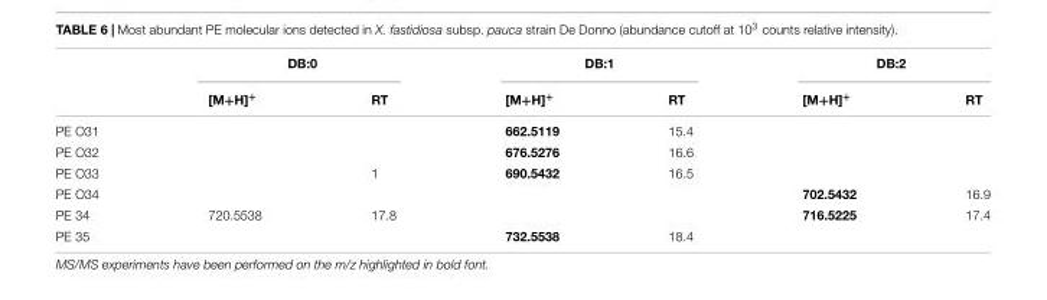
<table><thead><tr><td rowspan="2"></td><td colspan="2">DB:0</td><td colspan="2">DB:1</td><td colspan="2">DB:2</td></tr><tr><td>[M+H]<sup>+</sup></td><td>RT</td><td>[M+H]<sup>+</sup></td><td>RT</td><td>[M+H]<sup>+</sup></td><td>RT</td></tr></thead><tbody><tr><td>PE O31</td><td></td><td></td><td>662.5119</td><td>15.4</td><td></td><td></td></tr><tr><td>PE O32</td><td></td><td></td><td>676.5276</td><td>16.6</td><td></td><td></td></tr><tr><td>PE O33</td><td></td><td>1</td><td>690.5432</td><td>16.5</td><td></td><td></td></tr><tr><td>PE O34</td><td></td><td></td><td></td><td></td><td>702.5432</td><td>16.9</td></tr><tr><td>PE 34</td><td>720.5538</td><td>17.8</td><td></td><td></td><td>716.5225</td><td>17.4</td></tr><tr><td>PE 35</td><td></td><td></td><td>732.5538</td><td>18.4</td><td></td><td></td></tr></tbody></table>